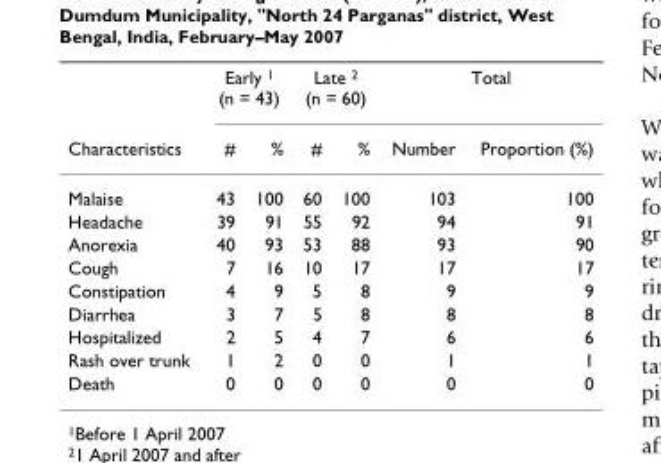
<table><thead><tr><td rowspan="2">Characteristics</td><td colspan="2">Early <sup>1</sup> (n = 43)</td><td colspan="2">Late <sup>2</sup> (n = 60)</td><td colspan="2">Total</td></tr><tr><td>#</td><td>%</td><td>#</td><td>%</td><td>Number</td><td>Proportion (%)</td></tr></thead><tbody><tr><td>Malaise</td><td>43</td><td>100</td><td>60</td><td>100</td><td>103</td><td>100</td></tr><tr><td>Headache</td><td>39</td><td>91</td><td>55</td><td>92</td><td>94</td><td>91</td></tr><tr><td>Anorexia</td><td>40</td><td>93</td><td>53</td><td>88</td><td>93</td><td>90</td></tr><tr><td>Cough</td><td>7</td><td>16</td><td>10</td><td>17</td><td>17</td><td>17</td></tr><tr><td>Constipation</td><td>4</td><td>9</td><td>5</td><td>8</td><td>9</td><td>9</td></tr><tr><td>Diarrhea</td><td>3</td><td>7</td><td>5</td><td>8</td><td>8</td><td>8</td></tr><tr><td>Hospitalized</td><td>2</td><td>5</td><td>4</td><td>7</td><td>6</td><td>6</td></tr><tr><td>Rash over trunk</td><td>1</td><td>2</td><td>0</td><td>0</td><td>1</td><td>1</td></tr><tr><td>Death</td><td>0</td><td>0</td><td>0</td><td>0</td><td>0</td><td>0</td></tr></tbody></table>